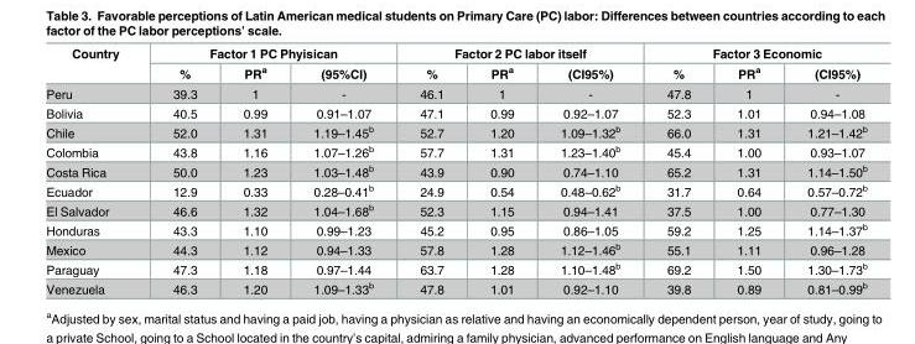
<table><thead><tr><td rowspan="2">Country</td><td colspan="3">Factor 1 PC Phyisican</td><td colspan="3">Factor 2 PC labor itself</td><td colspan="3">Factor 3 Economic</td></tr><tr><td>%</td><td>PR<sup>a</sup></td><td>(95%CI)</td><td>%</td><td>PR<sup>a</sup></td><td>(CI95%)</td><td>%</td><td>PR<sup>a</sup></td><td>(CI95%)</td></tr></thead><tbody><tr><td>Peru</td><td>39.3</td><td>1</td><td>-</td><td>46.1</td><td>1</td><td>-</td><td>47.8</td><td>1</td><td>-</td></tr><tr><td>Bolivia</td><td>40.5</td><td>0.99</td><td>0.91–1.07</td><td>47.1</td><td>0.99</td><td>0.92–1.07</td><td>52.3</td><td>1.01</td><td>0.94–1.08</td></tr><tr><td>Chile</td><td>52.0</td><td>1.31</td><td>1.19–1.45<sup>b</sup></td><td>52.7</td><td>1.20</td><td>1.09–1.32<sup>b</sup></td><td>66.0</td><td>1.31</td><td>1.21–1.42<sup>b</sup></td></tr><tr><td>Colombia</td><td>43.8</td><td>1.16</td><td>1.07–1.26<sup>b</sup></td><td>57.7</td><td>1.31</td><td>1.23–1.40<sup>b</sup></td><td>45.4</td><td>1.00</td><td>0.93–1.07</td></tr><tr><td>Costa Rica</td><td>50.0</td><td>1.23</td><td>1.03–1.48<sup>b</sup></td><td>43.9</td><td>0.90</td><td>0.74–1.10</td><td>65.2</td><td>1.31</td><td>1.14–1.50<sup>b</sup></td></tr><tr><td>Ecuador</td><td>12.9</td><td>0.33</td><td>0.28–0.41<sup>b</sup></td><td>24.9</td><td>0.54</td><td>0.48–0.62<sup>b</sup></td><td>31.7</td><td>0.64</td><td>0.57–0.72<sup>b</sup></td></tr><tr><td>El Salvador</td><td>46.6</td><td>1.32</td><td>1.04–1.68<sup>b</sup></td><td>52.3</td><td>1.15</td><td>0.94–1.41</td><td>37.5</td><td>1.00</td><td>0.77–1.30</td></tr><tr><td>Honduras</td><td>43.3</td><td>1.10</td><td>0.99–1.23</td><td>45.2</td><td>0.95</td><td>0.86–1.05</td><td>59.2</td><td>1.25</td><td>1.14–1.37<sup>b</sup></td></tr><tr><td>Mexico</td><td>44.3</td><td>1.12</td><td>0.94–1.33</td><td>57.8</td><td>1.28</td><td>1.12–1.46<sup>b</sup></td><td>55.1</td><td>1.11</td><td>0.96–1.28</td></tr><tr><td>Paraguay</td><td>47.3</td><td>1.18</td><td>0.97–1.44</td><td>63.7</td><td>1.28</td><td>1.10–1.48<sup>b</sup></td><td>69.2</td><td>1.50</td><td>1.30–1.73<sup>b</sup></td></tr><tr><td>Venezuela</td><td>46.3</td><td>1.20</td><td>1.09–1.33<sup>b</sup></td><td>47.8</td><td>1.01</td><td>0.92–1.10</td><td>39.8</td><td>0.89</td><td>0.81–0.99<sup>b</sup></td></tr></tbody></table>